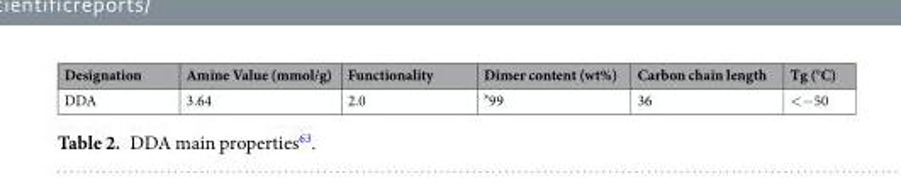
<table><thead><tr><td>Designation</td><td>Amine Value (mmol/g)</td><td>Functionality</td><td>Dimer content (wt%)</td><td>Carbon chain length</td><td>Tg (°C)</td></tr></thead><tbody><tr><td>DDA</td><td>3.64</td><td>2.0</td><td>˃99</td><td>36</td><td>&lt;−50</td></tr></tbody></table>